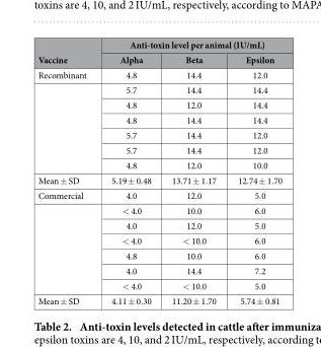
<table><thead><tr><td rowspan="2">Vaccine</td><td colspan="3">Anti-toxin level per animal (IU/mL)</td></tr><tr><td>Alpha</td><td>Beta</td><td>Epsilon</td></tr></thead><tbody><tr><td rowspan="7">Recombinant</td><td>4.8</td><td>14.4</td><td>12.0</td></tr><tr><td>5.7</td><td>14.4</td><td>14.4</td></tr><tr><td>4.8</td><td>12.0</td><td>14.4</td></tr><tr><td>4.8</td><td>14.4</td><td>14.4</td></tr><tr><td>5.7</td><td>14.4</td><td>12.0</td></tr><tr><td>5.7</td><td>14.4</td><td>12.0</td></tr><tr><td>4.8</td><td>12.0</td><td>10.0</td></tr><tr><td>Mean ± SD</td><td>5.19 ± 0.48</td><td>13.71 ± 1.17</td><td>12.74 ± 1.70</td></tr><tr><td rowspan="7">Commercial</td><td>4.0</td><td>12.0</td><td>5.0</td></tr><tr><td>&lt; 4.0</td><td>10.0</td><td>6.0</td></tr><tr><td>4.0</td><td>12.0</td><td>5.0</td></tr><tr><td>&lt; 4.0</td><td>&lt; 10.0</td><td>6.0</td></tr><tr><td>4.8</td><td>10.0</td><td>6.0</td></tr><tr><td>4.0</td><td>14.4</td><td>7.2</td></tr><tr><td>&lt; 4.0</td><td>&lt; 10.0</td><td>5.0</td></tr><tr><td>Mean ± SD</td><td>4.11 ± 0.30</td><td>11.20 ± 1.70</td><td>5.74 ± 0.81</td></tr></tbody></table>